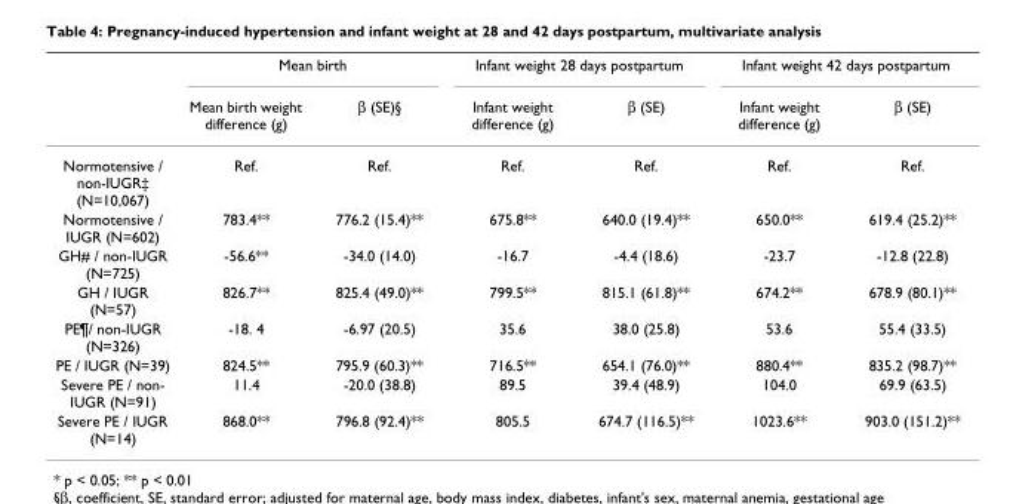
<table><thead><tr><td rowspan="2"></td><td colspan="2">Mean birth</td><td colspan="2">Infant weight 28 days postpartum</td><td colspan="2">Infant weight 42 days postpartum</td></tr><tr><td>Mean birth weight difference (g)</td><td>β (SE)§</td><td>Infant weight difference (g)</td><td>β (SE)</td><td>Infant weight difference (g)</td><td>β (SE)</td></tr></thead><tbody><tr><td>Normotensive / non-IUGR‡ (N=10,067)</td><td>Ref.</td><td>Ref.</td><td>Ref.</td><td>Ref.</td><td>Ref.</td><td>Ref.</td></tr><tr><td>Normotensive / IUGR (N=602)</td><td>783.4**</td><td>776.2 (15.4)**</td><td>675.8**</td><td>640.0 (19.4)**</td><td>650.0**</td><td>619.4 (25.2)**</td></tr><tr><td>GH# / non-IUGR (N=725)</td><td>-56.6**</td><td>-34.0 (14.0)</td><td>-16.7</td><td>-4.4 (18.6)</td><td>-23.7</td><td>-12.8 (22.8)</td></tr><tr><td>GH / IUGR (N=57)</td><td>826.7**</td><td>825.4 (49.0)**</td><td>799.5**</td><td>815.1 (61.8)**</td><td>674.2**</td><td>678.9 (80.1)**</td></tr><tr><td>PE¶/ non-IUGR (N=326)</td><td>-18. 4</td><td>-6.97 (20.5)</td><td>35.6</td><td>38.0 (25.8)</td><td>53.6</td><td>55.4 (33.5)</td></tr><tr><td>PE / IUGR (N=39)</td><td>824.5**</td><td>795.9 (60.3)**</td><td>716.5**</td><td>654.1 (76.0)**</td><td>880.4**</td><td>835.2 (98.7)**</td></tr><tr><td>Severe PE / non- IUGR (N=91)</td><td>11.4</td><td>-20.0 (38.8)</td><td>89.5</td><td>39.4 (48.9)</td><td>104.0</td><td>69.9 (63.5)</td></tr><tr><td>Severe PE / IUGR (N=14)</td><td>868.0**</td><td>796.8 (92.4)**</td><td>805.5</td><td>674.7 (116.5)**</td><td>1023.6**</td><td>903.0 (151.2)**</td></tr></tbody></table>